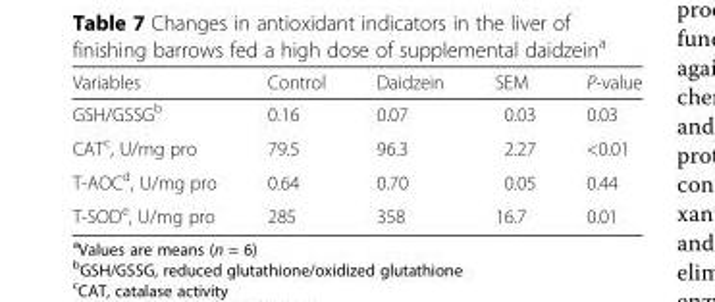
<table><thead><tr><td>Variables</td><td>Control</td><td>Daidzein</td><td>SEM</td><td>P-value</td></tr></thead><tbody><tr><td>GSH/GSSG<sup>b</sup></td><td>0.16</td><td>0.07</td><td>0.03</td><td>0.03</td></tr><tr><td>CAT<sup>c</sup>, U/mg pro</td><td>79.5</td><td>96.3</td><td>2.27</td><td>&lt;0.01</td></tr><tr><td>T-AOC<sup>d</sup>, U/mg pro</td><td>0.64</td><td>0.70</td><td>0.05</td><td>0.44</td></tr><tr><td>T-SOD<sup>e</sup>, U/mg pro</td><td>285</td><td>358</td><td>16.7</td><td>0.01</td></tr></tbody></table>